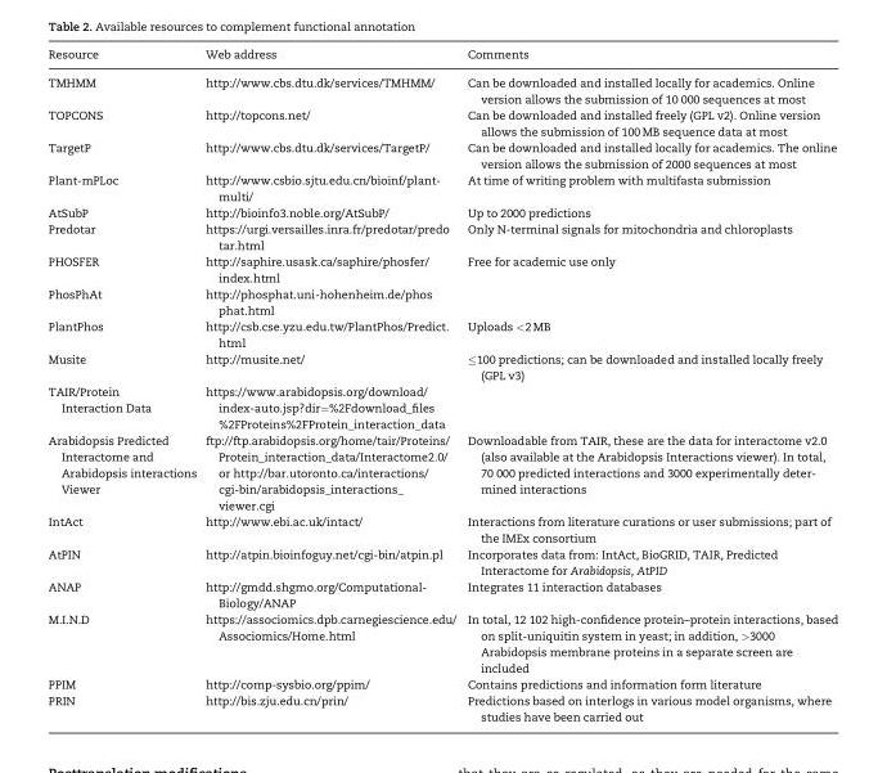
<table><thead><tr><td>Resource</td><td>Web address</td><td>Comments</td></tr></thead><tbody><tr><td>TMHMM</td><td>http://www.cbs.dtu.dk/services/TMHMM/</td><td>Can be downloaded and installed locally for academics. Online version allows the submission of 10 000 sequences at most</td></tr><tr><td>TOPCONS</td><td>http://topcons.net/</td><td>Can be downloaded and installed freely (GPL v2). Online version allows the submission of 100 MB sequence data at most</td></tr><tr><td>TargetP</td><td>http://www.cbs.dtu.dk/services/TargetP/</td><td>Can be downloaded and installed locally for academics. The online version allows the submission of 2000 sequences at most</td></tr><tr><td>Plant-mPLoc</td><td>http://www.csbio.sjtu.edu.cn/bioinf/plant- multi/</td><td>At time of writing problem with multifasta submission</td></tr><tr><td>AtSubP</td><td>http://bioinfo3.noble.org/AtSubP/</td><td>Up to 2000 predictions</td></tr><tr><td>Predotar</td><td>https://urgi.versailles.inra.fr/predotar/predo tar.html</td><td>Only N-terminal signals for mitochondria and chloroplasts</td></tr><tr><td>PHOSFER</td><td>http://saphire.usask.ca/saphire/phosfer/ index.html</td><td>Free for academic use only</td></tr><tr><td>PhosPhAt</td><td>http://phosphat.uni-hohenheim.de/phos phat.html</td><td></td></tr><tr><td>PlantPhos</td><td>http://csb.cse.yzu.edu.tw/PlantPhos/Predict. html</td><td>Uploads &lt;2 MB</td></tr><tr><td>Musite</td><td>http://musite.net/</td><td>≤100 predictions; can be downloaded and installed locally freely (GPL v3)</td></tr><tr><td>TAIR/Protein Interaction Data</td><td>https://www.arabidopsis.org/download/ index-auto.jsp?dir=%2Fdownload_files %2FProteins%2FProtein_interaction_data</td><td></td></tr><tr><td>Arabidopsis Predicted Interactome and Arabidopsis interactions Viewer</td><td>ftp://ftp.arabidopsis.org/home/tair/Proteins/ Protein_interaction_data/Interactome2.0/ or http://bar.utoronto.ca/interactions/ cgi-bin/arabidopsis_interactions_ viewer.cgi</td><td>Downloadable from TAIR, these are the data for interactome v2.0 (also available at the Arabidopsis Interactions viewer). In total, 70 000 predicted interactions and 3000 experimentally deter- mined interactions</td></tr><tr><td>IntAct</td><td>http://www.ebi.ac.uk/intact/</td><td>Interactions from literature curations or user submissions; part of the IMEx consortium</td></tr><tr><td>AtPIN</td><td>http://atpin.bioinfoguy.net/cgi-bin/atpin.pl</td><td>Incorporates data from: IntAct, BioGRID, TAIR, Predicted Interactome for Arabidopsis, AtPID</td></tr><tr><td>ANAP</td><td>http://gmdd.shgmo.org/Computational- Biology/ANAP</td><td>Integrates 11 interaction databases</td></tr><tr><td>M.I.N.D</td><td>https://associomics.dpb.carnegiescience.edu/ Associomics/Home.html</td><td>In total, 12 102 high-confidence protein–protein interactions, based on split-uniquitin system in yeast; in addition, &gt;3000 Arabidopsis membrane proteins in a separate screen are included</td></tr><tr><td>PPIM</td><td>http://comp-sysbio.org/ppim/</td><td>Contains predictions and information form literature</td></tr><tr><td>PRIN</td><td>http://bis.zju.edu.cn/prin/</td><td>Predictions based on interlogs in various model organisms, where studies have been carried out</td></tr></tbody></table>